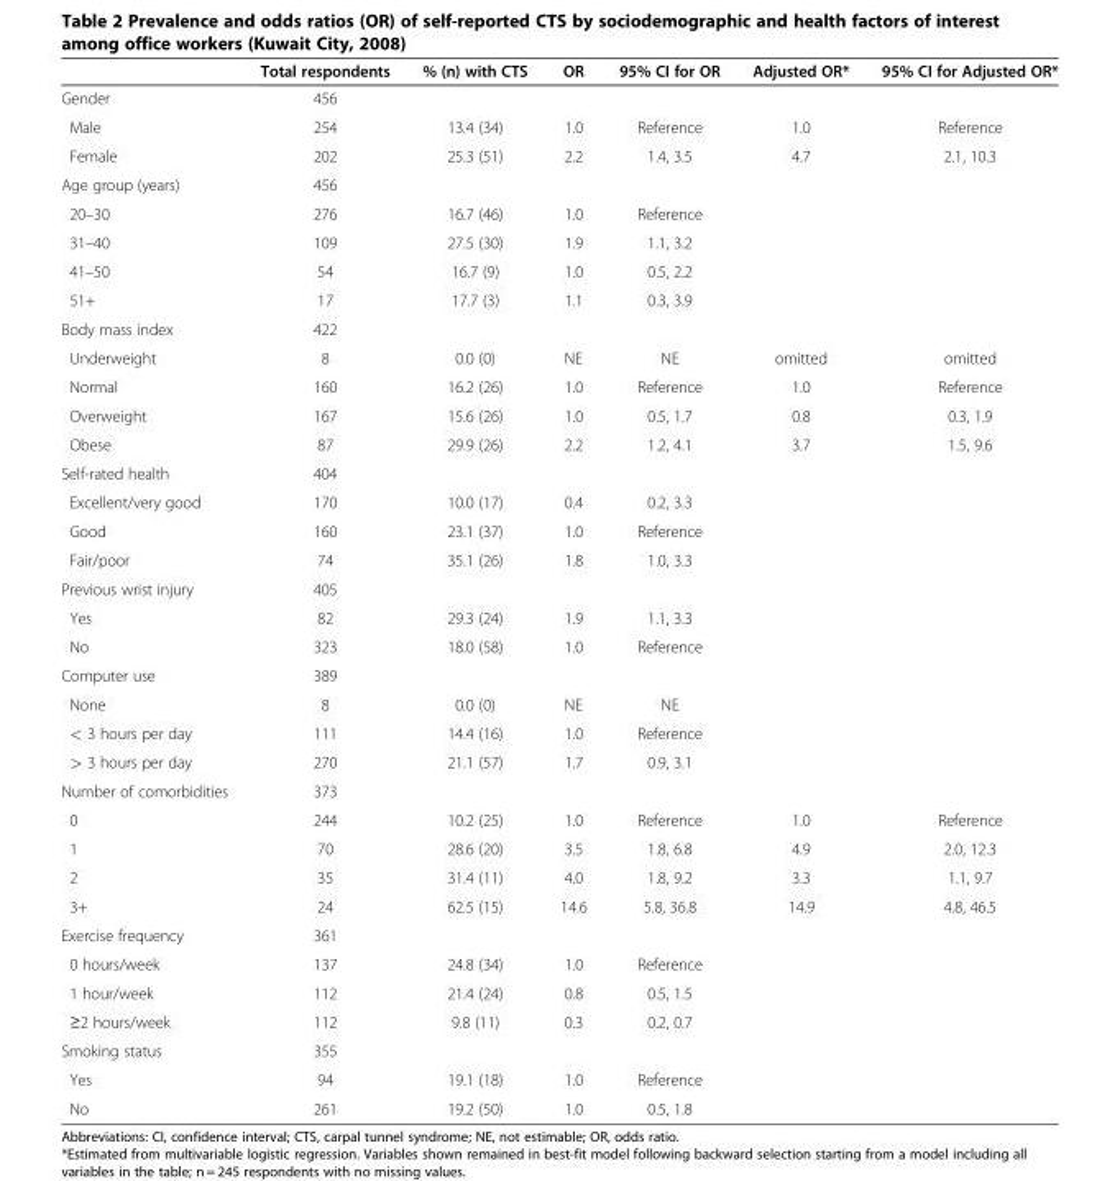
<table><thead><tr><td></td><td>Total respondents</td><td>% (n) with CTS</td><td>OR</td><td>95% CI for OR</td><td>Adjusted OR*</td><td>95% CI for Adjusted OR*</td></tr></thead><tbody><tr><td>Gender</td><td>456</td><td></td><td></td><td></td><td></td><td></td></tr><tr><td>Male</td><td>254</td><td>13.4 (34)</td><td>1.0</td><td>Reference</td><td>1.0</td><td>Reference</td></tr><tr><td>Female</td><td>202</td><td>25.3 (51)</td><td>2.2</td><td>1.4, 3.5</td><td>4.7</td><td>2.1, 10.3</td></tr><tr><td>Age group (years)</td><td>456</td><td></td><td></td><td></td><td></td><td></td></tr><tr><td>20–30</td><td>276</td><td>16.7 (46)</td><td>1.0</td><td>Reference</td><td></td><td></td></tr><tr><td>31–40</td><td>109</td><td>27.5 (30)</td><td>1.9</td><td>1.1, 3.2</td><td></td><td></td></tr><tr><td>41–50</td><td>54</td><td>16.7 (9)</td><td>1.0</td><td>0.5, 2.2</td><td></td><td></td></tr><tr><td>51+</td><td>17</td><td>17.7 (3)</td><td>1.1</td><td>0.3, 3.9</td><td></td><td></td></tr><tr><td>Body mass index</td><td>422</td><td></td><td></td><td></td><td></td><td></td></tr><tr><td>Underweight</td><td>8</td><td>0.0 (0)</td><td>NE</td><td>NE</td><td>omitted</td><td>omitted</td></tr><tr><td>Normal</td><td>160</td><td>16.2 (26)</td><td>1.0</td><td>Reference</td><td>1.0</td><td>Reference</td></tr><tr><td>Overweight</td><td>167</td><td>15.6 (26)</td><td>1.0</td><td>0.5, 1.7</td><td>0.8</td><td>0.3, 1.9</td></tr><tr><td>Obese</td><td>87</td><td>29.9 (26)</td><td>2.2</td><td>1.2, 4.1</td><td>3.7</td><td>1.5, 9.6</td></tr><tr><td>Self-rated health</td><td>404</td><td></td><td></td><td></td><td></td><td></td></tr><tr><td>Excellent/very good</td><td>170</td><td>10.0 (17)</td><td>0.4</td><td>0.2, 3.3</td><td></td><td></td></tr><tr><td>Good</td><td>160</td><td>23.1 (37)</td><td>1.0</td><td>Reference</td><td></td><td></td></tr><tr><td>Fair/poor</td><td>74</td><td>35.1 (26)</td><td>1.8</td><td>1.0, 3.3</td><td></td><td></td></tr><tr><td>Previous wrist injury</td><td>405</td><td></td><td></td><td></td><td></td><td></td></tr><tr><td>Yes</td><td>82</td><td>29.3 (24)</td><td>1.9</td><td>1.1, 3.3</td><td></td><td></td></tr><tr><td>No</td><td>323</td><td>18.0 (58)</td><td>1.0</td><td>Reference</td><td></td><td></td></tr><tr><td>Computer use</td><td>389</td><td></td><td></td><td></td><td></td><td></td></tr><tr><td>None</td><td>8</td><td>0.0 (0)</td><td>NE</td><td>NE</td><td></td><td></td></tr><tr><td>&lt; 3 hours per day</td><td>111</td><td>14.4 (16)</td><td>1.0</td><td>Reference</td><td></td><td></td></tr><tr><td>&gt; 3 hours per day</td><td>270</td><td>21.1 (57)</td><td>1.7</td><td>0.9, 3.1</td><td></td><td></td></tr><tr><td>Number of comorbidities</td><td>373</td><td></td><td></td><td></td><td></td><td></td></tr><tr><td>0</td><td>244</td><td>10.2 (25)</td><td>1.0</td><td>Reference</td><td>1.0</td><td>Reference</td></tr><tr><td>1</td><td>70</td><td>28.6 (20)</td><td>3.5</td><td>1.8, 6.8</td><td>4.9</td><td>2.0, 12.3</td></tr><tr><td>2</td><td>35</td><td>31.4 (11)</td><td>4.0</td><td>1.8, 9.2</td><td>3.3</td><td>1.1, 9.7</td></tr><tr><td>3+</td><td>24</td><td>62.5 (15)</td><td>14.6</td><td>5.8, 36.8</td><td>14.9</td><td>4.8, 46.5</td></tr><tr><td>Exercise frequency</td><td>361</td><td></td><td></td><td></td><td></td><td></td></tr><tr><td>0 hours/week</td><td>137</td><td>24.8 (34)</td><td>1.0</td><td>Reference</td><td></td><td></td></tr><tr><td>1 hour/week</td><td>112</td><td>21.4 (24)</td><td>0.8</td><td>0.5, 1.5</td><td></td><td></td></tr><tr><td>≥2 hours/week</td><td>112</td><td>9.8 (11)</td><td>0.3</td><td>0.2, 0.7</td><td></td><td></td></tr><tr><td>Smoking status</td><td>355</td><td></td><td></td><td></td><td></td><td></td></tr><tr><td>Yes</td><td>94</td><td>19.1 (18)</td><td>1.0</td><td>Reference</td><td></td><td></td></tr><tr><td>No</td><td>261</td><td>19.2 (50)</td><td>1.0</td><td>0.5, 1.8</td><td></td><td></td></tr></tbody></table>